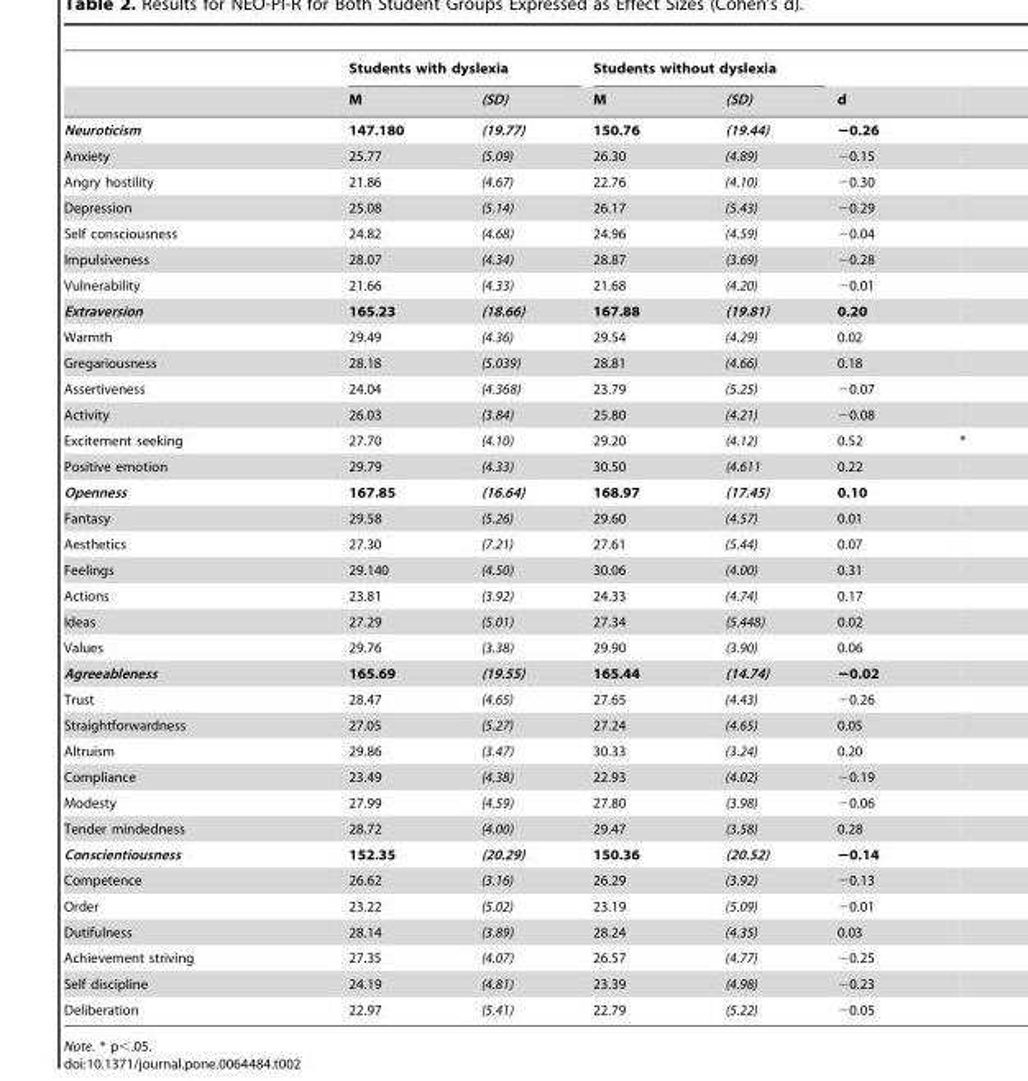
<table><thead><tr><td rowspan="2"></td><td colspan="2">Students with dyslexia</td><td colspan="2">Students without dyslexia</td><td rowspan="2">d</td><td rowspan="2"></td></tr><tr><td>M</td><td>(SD)</td><td>M</td><td>(SD)</td></tr></thead><tbody><tr><td>Neuroticism</td><td>147.180</td><td>(19.77)</td><td>150.76</td><td>(19.44)</td><td>−0.26</td><td></td></tr><tr><td>Anxiety</td><td>25.77</td><td>(5.09)</td><td>26.30</td><td>(4.89)</td><td>−0.15</td><td></td></tr><tr><td>Angry hostility</td><td>21.86</td><td>(4.67)</td><td>22.76</td><td>(4.10)</td><td>−0.30</td><td></td></tr><tr><td>Depression</td><td>25.08</td><td>(5.14)</td><td>26.17</td><td>(5.43)</td><td>−0.29</td><td></td></tr><tr><td>Self consciousness</td><td>24.82</td><td>(4.68)</td><td>24.96</td><td>(4.59)</td><td>−0.04</td><td></td></tr><tr><td>Impulsiveness</td><td>28.07</td><td>(4.34)</td><td>28.87</td><td>(3.69)</td><td>−0.28</td><td></td></tr><tr><td>Vulnerability</td><td>21.66</td><td>(4.33)</td><td>21.68</td><td>(4.20)</td><td>−0.01</td><td></td></tr><tr><td>Extraversion</td><td>165.23</td><td>(18.66)</td><td>167.88</td><td>(19.81)</td><td>0.20</td><td></td></tr><tr><td>Warmth</td><td>29.49</td><td>(4.36)</td><td>29.54</td><td>(4.29)</td><td>0.02</td><td></td></tr><tr><td>Gregariousness</td><td>28.18</td><td>(5.039)</td><td>28.81</td><td>(4.66)</td><td>0.18</td><td></td></tr><tr><td>Assertiveness</td><td>24.04</td><td>(4.368)</td><td>23.79</td><td>(5.25)</td><td>−0.07</td><td></td></tr><tr><td>Activity</td><td>26.03</td><td>(3.84)</td><td>25.80</td><td>(4.21)</td><td>−0.08</td><td></td></tr><tr><td>Excitement seeking</td><td>27.70</td><td>(4.10)</td><td>29.20</td><td>(4.12)</td><td>0.52</td><td>*</td></tr><tr><td>Positive emotion</td><td>29.79</td><td>(4.33)</td><td>30.50</td><td>(4.611</td><td>0.22</td><td></td></tr><tr><td>Openness</td><td>167.85</td><td>(16.64)</td><td>168.97</td><td>(17.45)</td><td>0.10</td><td></td></tr><tr><td>Fantasy</td><td>29.58</td><td>(5.26)</td><td>29.60</td><td>(4.57)</td><td>0.01</td><td></td></tr><tr><td>Aesthetics</td><td>27.30</td><td>(7.21)</td><td>27.61</td><td>(5.44)</td><td>0.07</td><td></td></tr><tr><td>Feelings</td><td>29.140</td><td>(4.50)</td><td>30.06</td><td>(4.00)</td><td>0.31</td><td></td></tr><tr><td>Actions</td><td>23.81</td><td>(3.92)</td><td>24.33</td><td>(4.74)</td><td>0.17</td><td></td></tr><tr><td>Ideas</td><td>27.29</td><td>(5.01)</td><td>27.34</td><td>(5.448)</td><td>0.02</td><td></td></tr><tr><td>Values</td><td>29.76</td><td>(3.38)</td><td>29.90</td><td>(3.90)</td><td>0.06</td><td></td></tr><tr><td>Agreeableness</td><td>165.69</td><td>(19.55)</td><td>165.44</td><td>(14.74)</td><td>−0.02</td><td></td></tr><tr><td>Trust</td><td>28.47</td><td>(4.65)</td><td>27.65</td><td>(4.43)</td><td>−0.26</td><td></td></tr><tr><td>Straightforwardness</td><td>27.05</td><td>(5.27)</td><td>27.24</td><td>(4.65)</td><td>0.05</td><td></td></tr><tr><td>Altruism</td><td>29.86</td><td>(3.47)</td><td>30.33</td><td>(3.24)</td><td>0.20</td><td></td></tr><tr><td>Compliance</td><td>23.49</td><td>(4.38)</td><td>22.93</td><td>(4.02)</td><td>−0.19</td><td></td></tr><tr><td>Modesty</td><td>27.99</td><td>(4.59)</td><td>27.80</td><td>(3.98)</td><td>−0.06</td><td></td></tr><tr><td>Tender mindedness</td><td>28.72</td><td>(4.00)</td><td>29.47</td><td>(3.58)</td><td>0.28</td><td></td></tr><tr><td>Conscientiousness</td><td>152.35</td><td>(20.29)</td><td>150.36</td><td>(20.52)</td><td>−0.14</td><td></td></tr><tr><td>Competence</td><td>26.62</td><td>(3.16)</td><td>26.29</td><td>(3.92)</td><td>−0.13</td><td></td></tr><tr><td>Order</td><td>23.22</td><td>(5.02)</td><td>23.19</td><td>(5.09)</td><td>−0.01</td><td></td></tr><tr><td>Dutifulness</td><td>28.14</td><td>(3.89)</td><td>28.24</td><td>(4.35)</td><td>0.03</td><td></td></tr><tr><td>Achievement striving</td><td>27.35</td><td>(4.07)</td><td>26.57</td><td>(4.77)</td><td>−0.25</td><td></td></tr><tr><td>Self discipline</td><td>24.19</td><td>(4.81)</td><td>23.39</td><td>(4.98)</td><td>−0.23</td><td></td></tr><tr><td>Deliberation</td><td>22.97</td><td>(5.41)</td><td>22.79</td><td>(5.22)</td><td>−0.05</td><td></td></tr></tbody></table>